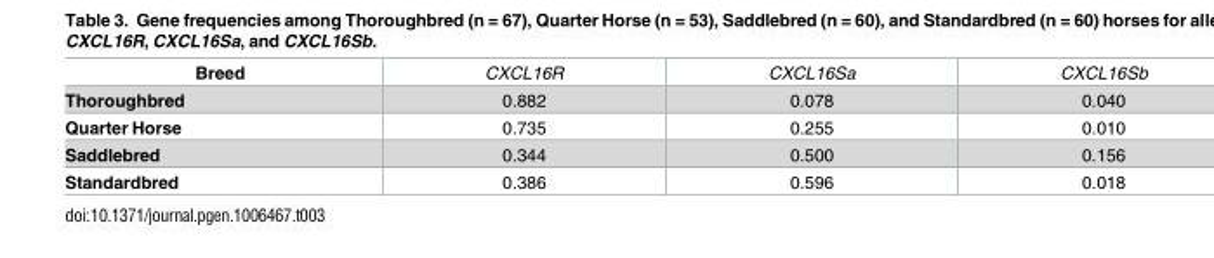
<table><tbody><tr><td>Breed</td><td>CXCL16R</td><td>CXCL16Sa</td><td>CXCL16Sb</td></tr><tr><td>Thoroughbred</td><td>0.882</td><td>0.078</td><td>0.040</td></tr><tr><td>Quarter Horse</td><td>0.735</td><td>0.255</td><td>0.010</td></tr><tr><td>Saddlebred</td><td>0.344</td><td>0.500</td><td>0.156</td></tr><tr><td>Standardbred</td><td>0.386</td><td>0.596</td><td>0.018</td></tr></tbody></table>